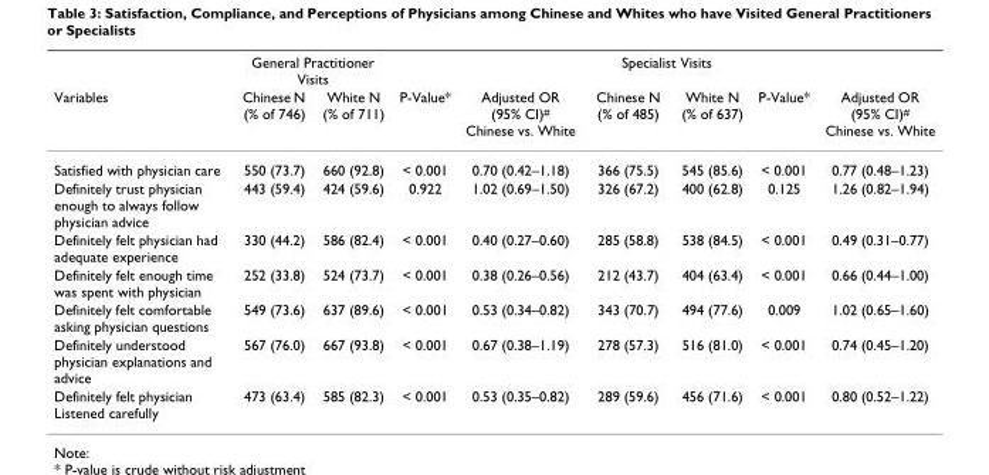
<table><thead><tr><td rowspan="2">Variables</td><td colspan="2">General Practitioner Visits</td><td rowspan="2">P-Value*</td><td rowspan="2">Adjusted OR (95% CI)<sup>#</sup> Chinese vs. White</td><td colspan="2">Specialist Visits</td><td rowspan="2">P-Value*</td><td rowspan="2">Adjusted OR (95% CI)<sup>#</sup> Chinese vs. White</td></tr><tr><td>Chinese N (% of 746)</td><td>White N (% of 711)</td><td>Chinese N (% of 485)</td><td>White N (% of 637)</td></tr></thead><tbody><tr><td>Satisfied with physician care</td><td>550 (73.7)</td><td>660 (92.8)</td><td>&lt; 0.001</td><td>0.70 (0.42–1.18)</td><td>366 (75.5)</td><td>545 (85.6)</td><td>&lt; 0.001</td><td>0.77 (0.48–1.23)</td></tr><tr><td>Definitely trust physician enough to always follow physician advice</td><td>443 (59.4)</td><td>424 (59.6)</td><td>0.922</td><td>1.02 (0.69–1.50)</td><td>326 (67.2)</td><td>400 (62.8)</td><td>0.125</td><td>1.26 (0.82–1.94)</td></tr><tr><td>Definitely felt physician had adequate experience</td><td>330 (44.2)</td><td>586 (82.4)</td><td>&lt; 0.001</td><td>0.40 (0.27–0.60)</td><td>285 (58.8)</td><td>538 (84.5)</td><td>&lt; 0.001</td><td>0.49 (0.31–0.77)</td></tr><tr><td>Definitely felt enough time was spent with physician</td><td>252 (33.8)</td><td>524 (73.7)</td><td>&lt; 0.001</td><td>0.38 (0.26–0.56)</td><td>212 (43.7)</td><td>404 (63.4)</td><td>&lt; 0.001</td><td>0.66 (0.44–1.00)</td></tr><tr><td>Definitely felt comfortable asking physician questions</td><td>549 (73.6)</td><td>637 (89.6)</td><td>&lt; 0.001</td><td>0.53 (0.34–0.82)</td><td>343 (70.7)</td><td>494 (77.6)</td><td>0.009</td><td>1.02 (0.65–1.60)</td></tr><tr><td>Definitely understood physician explanations and advice</td><td>567 (76.0)</td><td>667 (93.8)</td><td>&lt; 0.001</td><td>0.67 (0.38–1.19)</td><td>278 (57.3)</td><td>516 (81.0)</td><td>&lt; 0.001</td><td>0.74 (0.45–1.20)</td></tr><tr><td>Definitely felt physician Listened carefully</td><td>473 (63.4)</td><td>585 (82.3)</td><td>&lt; 0.001</td><td>0.53 (0.35–0.82)</td><td>289 (59.6)</td><td>456 (71.6)</td><td>&lt; 0.001</td><td>0.80 (0.52–1.22)</td></tr></tbody></table>